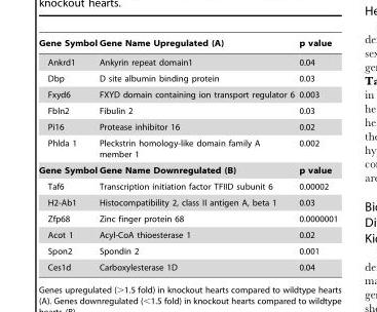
<table><thead><tr><td>Gene Symbol</td><td>Gene Name Upregulated (A)</td><td>p value</td></tr></thead><tbody><tr><td>Ankrd1</td><td>Ankyrin repeat domain1</td><td>0.04</td></tr><tr><td>Dbp</td><td>D site albumin binding protein</td><td>0.03</td></tr><tr><td>Fxyd6</td><td>FXYD domain containing ion transport regulator 6</td><td>0.003</td></tr><tr><td>Fbln2</td><td>Fibulin 2</td><td>0.03</td></tr><tr><td>Pi16</td><td>Protease inhibitor 16</td><td>0.02</td></tr><tr><td>Phlda 1</td><td>Pleckstrin homology-like domain family A member 1</td><td>0.002</td></tr><tr><td>Gene Symbol</td><td>Gene Name Downregulated (B)</td><td>p value</td></tr><tr><td>Taf6</td><td>Transcription initiation factor TFIID subunit 6</td><td>0.00002</td></tr><tr><td>H2-Ab1</td><td>Histocompatibility 2, class II antigen A, beta 1</td><td>0.03</td></tr><tr><td>Zfp68</td><td>Zinc finger protein 68</td><td>0.0000001</td></tr><tr><td>Acot 1</td><td>Acyl-CoA thioesterase 1</td><td>0.02</td></tr><tr><td>Spon2</td><td>Spondin 2</td><td>0.001</td></tr><tr><td>Ces1d</td><td>Carboxylesterase 1D</td><td>0.04</td></tr></tbody></table>